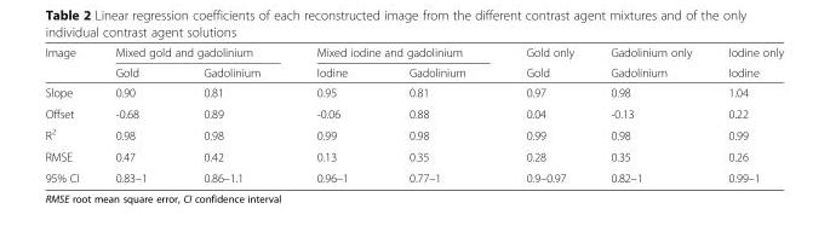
<table><thead><tr><td rowspan="2">Image</td><td colspan="2">Mixed gold and gadolinium</td><td colspan="2">Mixed iodine and gadolinium</td><td rowspan="2">Gold only Gold</td><td rowspan="2">Gadolinium only Gadolinium</td><td rowspan="2">Iodine only Iodine</td></tr><tr><td>Gold</td><td>Gadolinium</td><td>Iodine</td><td>Gadolinium</td></tr></thead><tbody><tr><td>Slope</td><td>0.90</td><td>0.81</td><td>0.95</td><td>0.81</td><td>0.97</td><td>0.98</td><td>1.04</td></tr><tr><td>Offset</td><td>-0.68</td><td>0.89</td><td>-0.06</td><td>0.88</td><td>0.04</td><td>-0.13</td><td>0.22</td></tr><tr><td>R<sup>2</sup></td><td>0.98</td><td>0.98</td><td>0.99</td><td>0.98</td><td>0.99</td><td>0.98</td><td>0.99</td></tr><tr><td>RMSE</td><td>0.47</td><td>0.42</td><td>0.13</td><td>0.35</td><td>0.28</td><td>0.35</td><td>0.26</td></tr><tr><td>95% CI</td><td>0.83–1</td><td>0.86–1.1</td><td>0.96–1</td><td>0.77–1</td><td>0.9–0.97</td><td>0.82–1</td><td>0.99–1</td></tr></tbody></table>